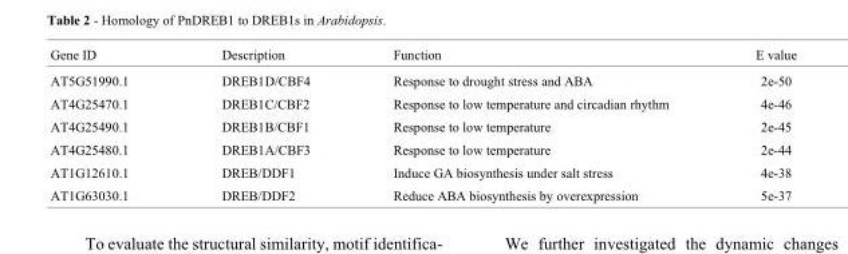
<table><thead><tr><td>Gene ID</td><td>Description</td><td>Function</td><td>E value</td></tr></thead><tbody><tr><td>AT5G51990.1</td><td>DREB1D/CBF4</td><td>Response to drought stress and ABA</td><td>2e-50</td></tr><tr><td>AT4G25470.1</td><td>DREB1C/CBF2</td><td>Response to low temperature and circadian rhythm</td><td>4e-46</td></tr><tr><td>AT4G25490.1</td><td>DREB1B/CBF1</td><td>Response to low temperature</td><td>2e-45</td></tr><tr><td>AT4G25480.1</td><td>DREB1A/CBF3</td><td>Response to low temperature</td><td>2e-44</td></tr><tr><td>AT1G12610.1</td><td>DREB/DDF1</td><td>Induce GA biosynthesis under salt stress</td><td>4e-38</td></tr><tr><td>AT1G63030.1</td><td>DREB/DDF2</td><td>Reduce ABA biosynthesis by overexpression</td><td>5e-37</td></tr></tbody></table>